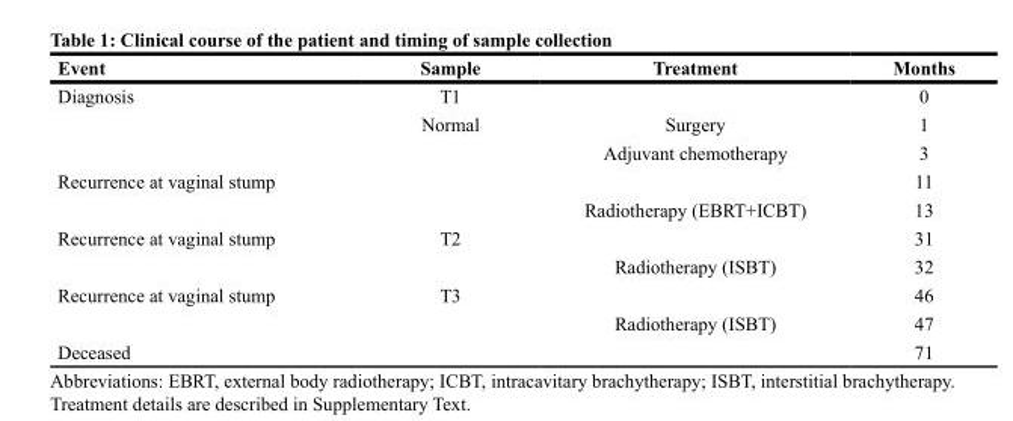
<table><thead><tr><td>Event</td><td>Sample</td><td>Treatment</td><td>Months</td></tr></thead><tbody><tr><td rowspan="3">Diagnosis</td><td>T1</td><td></td><td>0</td></tr><tr><td>Normal</td><td>Surgery</td><td>1</td></tr><tr><td></td><td>Adjuvant chemotherapy</td><td>3</td></tr><tr><td rowspan="2">Recurrence at vaginal stump</td><td></td><td></td><td>11</td></tr><tr><td></td><td>Radiotherapy (EBRT+ICBT)</td><td>13</td></tr><tr><td rowspan="2">Recurrence at vaginal stump</td><td>T2</td><td></td><td>31</td></tr><tr><td></td><td>Radiotherapy (ISBT)</td><td>32</td></tr><tr><td rowspan="2">Recurrence at vaginal stump</td><td>T3</td><td></td><td>46</td></tr><tr><td></td><td>Radiotherapy (ISBT)</td><td>47</td></tr><tr><td>Deceased</td><td></td><td></td><td>71</td></tr></tbody></table>